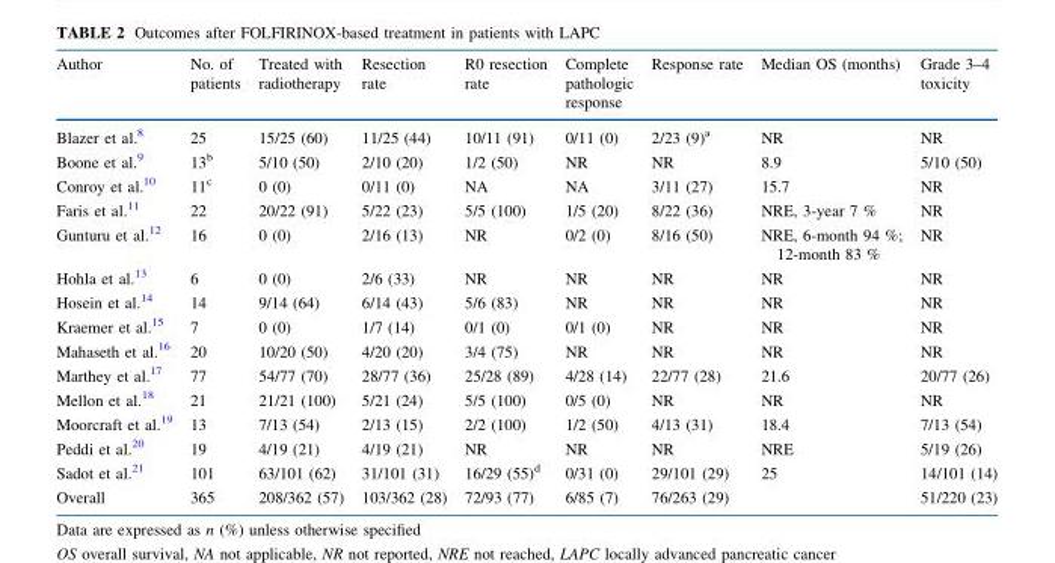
<table><thead><tr><td>Author</td><td>No. of patients</td><td>Treated with radiotherapy</td><td>Resection rate</td><td>R0 resection rate</td><td>Complete pathologic response</td><td>Response rate</td><td>Median OS (months)</td><td>Grade 3–4 toxicity</td></tr></thead><tbody><tr><td>Blazer et al.<sup>8</sup></td><td>25</td><td>15/25 (60)</td><td>11/25 (44)</td><td>10/11 (91)</td><td>0/11 (0)</td><td>2/23 (9)<sup>a</sup></td><td>NR</td><td>NR</td></tr><tr><td>Boone et al.<sup>9</sup></td><td>13<sup>b</sup></td><td>5/10 (50)</td><td>2/10 (20)</td><td>1/2 (50)</td><td>NR</td><td>NR</td><td>8.9</td><td>5/10 (50)</td></tr><tr><td>Conroy et al.<sup>10</sup></td><td>11<sup>c</sup></td><td>0 (0)</td><td>0/11 (0)</td><td>NA</td><td>NA</td><td>3/11 (27)</td><td>15.7</td><td>NR</td></tr><tr><td>Faris et al.<sup>11</sup></td><td>22</td><td>20/22 (91)</td><td>5/22 (23)</td><td>5/5 (100)</td><td>1/5 (20)</td><td>8/22 (36)</td><td>NRE, 3-year 7 %</td><td>NR</td></tr><tr><td>Gunturu et al.<sup>12</sup></td><td>16</td><td>0 (0)</td><td>2/16 (13)</td><td>NR</td><td>0/2 (0)</td><td>8/16 (50)</td><td>NRE, 6-month 94 %; 12-month 83 %</td><td>NR</td></tr><tr><td>Hohla et al.<sup>13</sup></td><td>6</td><td>0 (0)</td><td>2/6 (33)</td><td>NR</td><td>NR</td><td>NR</td><td>NR</td><td>NR</td></tr><tr><td>Hosein et al.<sup>14</sup></td><td>14</td><td>9/14 (64)</td><td>6/14 (43)</td><td>5/6 (83)</td><td>NR</td><td>NR</td><td>NR</td><td>NR</td></tr><tr><td>Kraemer et al.<sup>15</sup></td><td>7</td><td>0 (0)</td><td>1/7 (14)</td><td>0/1 (0)</td><td>0/1 (0)</td><td>NR</td><td>NR</td><td>NR</td></tr><tr><td>Mahaseth et al.<sup>16</sup></td><td>20</td><td>10/20 (50)</td><td>4/20 (20)</td><td>3/4 (75)</td><td>NR</td><td>NR</td><td>NR</td><td>NR</td></tr><tr><td>Marthey et al.<sup>17</sup></td><td>77</td><td>54/77 (70)</td><td>28/77 (36)</td><td>25/28 (89)</td><td>4/28 (14)</td><td>22/77 (28)</td><td>21.6</td><td>20/77 (26)</td></tr><tr><td>Mellon et al.<sup>18</sup></td><td>21</td><td>21/21 (100)</td><td>5/21 (24)</td><td>5/5 (100)</td><td>0/5 (0)</td><td>NR</td><td>NR</td><td>NR</td></tr><tr><td>Moorcraft et al.<sup>19</sup></td><td>13</td><td>7/13 (54)</td><td>2/13 (15)</td><td>2/2 (100)</td><td>1/2 (50)</td><td>4/13 (31)</td><td>18.4</td><td>7/13 (54)</td></tr><tr><td>Peddi et al.<sup>20</sup></td><td>19</td><td>4/19 (21)</td><td>4/19 (21)</td><td>NR</td><td>NR</td><td>NR</td><td>NRE</td><td>5/19 (26)</td></tr><tr><td>Sadot et al.<sup>21</sup></td><td>101</td><td>63/101 (62)</td><td>31/101 (31)</td><td>16/29 (55)<sup>d</sup></td><td>0/31 (0)</td><td>29/101 (29)</td><td>25</td><td>14/101 (14)</td></tr><tr><td>Overall</td><td>365</td><td>208/362 (57)</td><td>103/362 (28)</td><td>72/93 (77)</td><td>6/85 (7)</td><td>76/263 (29)</td><td></td><td>51/220 (23)</td></tr></tbody></table>